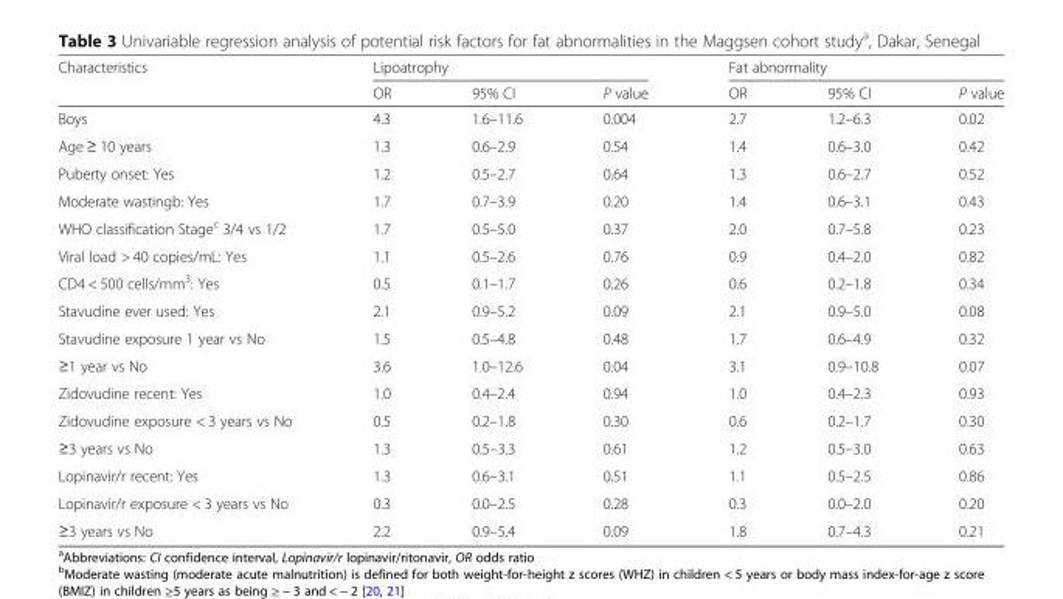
<table><thead><tr><td rowspan="2">Characteristics</td><td colspan="3">Lipoatrophy</td><td colspan="3">Fat abnormality</td></tr><tr><td>OR</td><td>95% CI</td><td>P value</td><td>OR</td><td>95% CI</td><td>P value</td></tr></thead><tbody><tr><td>Boys</td><td>4.3</td><td>1.6–11.6</td><td>0.004</td><td>2.7</td><td>1.2–6.3</td><td>0.02</td></tr><tr><td>Age ≥ 10 years</td><td>1.3</td><td>0.6–2.9</td><td>0.54</td><td>1.4</td><td>0.6–3.0</td><td>0.42</td></tr><tr><td>Puberty onset: Yes</td><td>1.2</td><td>0.5–2.7</td><td>0.64</td><td>1.3</td><td>0.6–2.7</td><td>0.52</td></tr><tr><td>Moderate wastingb: Yes</td><td>1.7</td><td>0.7–3.9</td><td>0.20</td><td>1.4</td><td>0.6–3.1</td><td>0.43</td></tr><tr><td>WHO classification Stage<sup>c</sup> 3/4 vs 1/2</td><td>1.7</td><td>0.5–5.0</td><td>0.37</td><td>2.0</td><td>0.7–5.8</td><td>0.23</td></tr><tr><td>Viral load &gt; 40 copies/mL: Yes</td><td>1.1</td><td>0.5–2.6</td><td>0.76</td><td>0.9</td><td>0.4–2.0</td><td>0.82</td></tr><tr><td>CD4 &lt; 500 cells/mm<sup>3</sup>: Yes</td><td>0.5</td><td>0.1–1.7</td><td>0.26</td><td>0.6</td><td>0.2–1.8</td><td>0.34</td></tr><tr><td>Stavudine ever used: Yes</td><td>2.1</td><td>0.9–5.2</td><td>0.09</td><td>2.1</td><td>0.9–5.0</td><td>0.08</td></tr><tr><td>Stavudine exposure 1 year vs No</td><td>1.5</td><td>0.5–4.8</td><td>0.48</td><td>1.7</td><td>0.6–4.9</td><td>0.32</td></tr><tr><td>≥1 year vs No</td><td>3.6</td><td>1.0–12.6</td><td>0.04</td><td>3.1</td><td>0.9–10.8</td><td>0.07</td></tr><tr><td>Zidovudine recent: Yes</td><td>1.0</td><td>0.4–2.4</td><td>0.94</td><td>1.0</td><td>0.4–2.3</td><td>0.93</td></tr><tr><td>Zidovudine exposure &lt; 3 years vs No</td><td>0.5</td><td>0.2–1.8</td><td>0.30</td><td>0.6</td><td>0.2–1.7</td><td>0.30</td></tr><tr><td>≥3 years vs No</td><td>1.3</td><td>0.5–3.3</td><td>0.61</td><td>1.2</td><td>0.5–3.0</td><td>0.63</td></tr><tr><td>Lopinavir/r recent: Yes</td><td>1.3</td><td>0.6–3.1</td><td>0.51</td><td>1.1</td><td>0.5–2.5</td><td>0.86</td></tr><tr><td>Lopinavir/r exposure &lt; 3 years vs No</td><td>0.3</td><td>0.0–2.5</td><td>0.28</td><td>0.3</td><td>0.0–2.0</td><td>0.20</td></tr><tr><td>≥3 years vs No</td><td>2.2</td><td>0.9–5.4</td><td>0.09</td><td>1.8</td><td>0.7–4.3</td><td>0.21</td></tr></tbody></table>